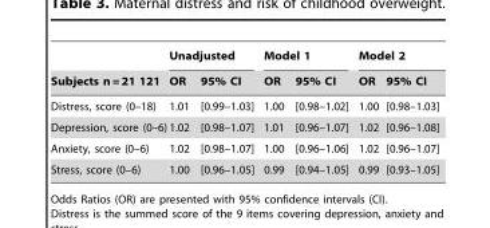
<table><thead><tr><td rowspan="2">Subjects n = 21 121</td><td colspan="2">Unadjusted</td><td colspan="2">Model 1</td><td colspan="2">Model 2</td></tr><tr><td>OR</td><td>95% CI</td><td>OR</td><td>95% CI</td><td>OR</td><td>95% CI</td></tr></thead><tbody><tr><td>Distress, score (0–18)</td><td>1.01</td><td>[0.99–1.03]</td><td>1.00</td><td>[0.98–1.02]</td><td>1.00</td><td>[0.98–1.03]</td></tr><tr><td>Depression, score (0–6)</td><td>1.02</td><td>[0.98–1.07]</td><td>1.01</td><td>[0.96–1.07]</td><td>1.02</td><td>[0.96–1.08]</td></tr><tr><td>Anxiety, score (0–6)</td><td>1.02</td><td>[0.98–1.07]</td><td>1.00</td><td>[0.96–1.06]</td><td>1.02</td><td>[0.96–1.07]</td></tr><tr><td>Stress, score (0–6)</td><td>1.00</td><td>[0.96–1.05]</td><td>0.99</td><td>[0.94–1.05]</td><td>0.99</td><td>[0.93–1.05]</td></tr></tbody></table>